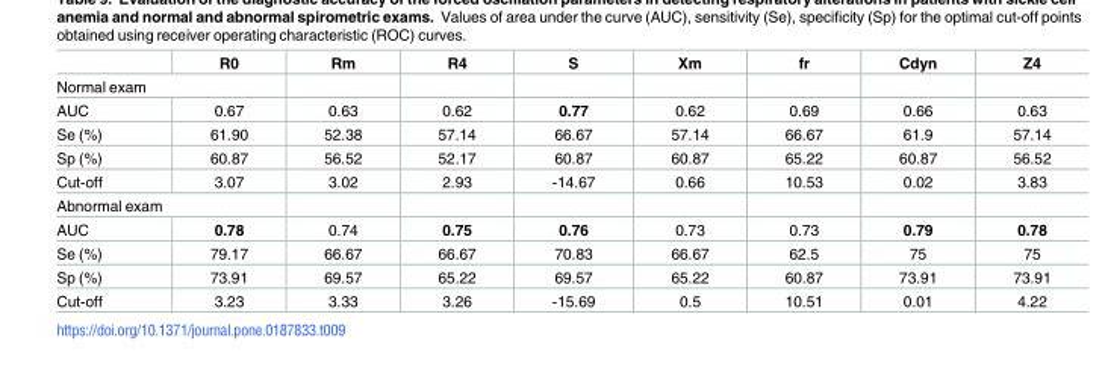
<table><thead><tr><td></td><td>R0</td><td>Rm</td><td>R4</td><td>S</td><td>Xm</td><td>fr</td><td>Cdyn</td><td>Z4</td></tr></thead><tbody><tr><td colspan="9">Normal exam</td></tr><tr><td>AUC</td><td>0.67</td><td>0.63</td><td>0.62</td><td>0.77</td><td>0.62</td><td>0.69</td><td>0.66</td><td>0.63</td></tr><tr><td>Se (%)</td><td>61.90</td><td>52.38</td><td>57.14</td><td>66.67</td><td>57.14</td><td>66.67</td><td>61.9</td><td>57.14</td></tr><tr><td>Sp (%)</td><td>60.87</td><td>56.52</td><td>52.17</td><td>60.87</td><td>60.87</td><td>65.22</td><td>60.87</td><td>56.52</td></tr><tr><td>Cut-off</td><td>3.07</td><td>3.02</td><td>2.93</td><td>-14.67</td><td>0.66</td><td>10.53</td><td>0.02</td><td>3.83</td></tr><tr><td colspan="9">Abnormal exam</td></tr><tr><td>AUC</td><td>0.78</td><td>0.74</td><td>0.75</td><td>0.76</td><td>0.73</td><td>0.73</td><td>0.79</td><td>0.78</td></tr><tr><td>Se (%)</td><td>79.17</td><td>66.67</td><td>66.67</td><td>70.83</td><td>66.67</td><td>62.5</td><td>75</td><td>75</td></tr><tr><td>Sp (%)</td><td>73.91</td><td>69.57</td><td>65.22</td><td>69.57</td><td>65.22</td><td>60.87</td><td>73.91</td><td>73.91</td></tr><tr><td>Cut-off</td><td>3.23</td><td>3.33</td><td>3.26</td><td>-15.69</td><td>0.5</td><td>10.51</td><td>0.01</td><td>4.22</td></tr></tbody></table>